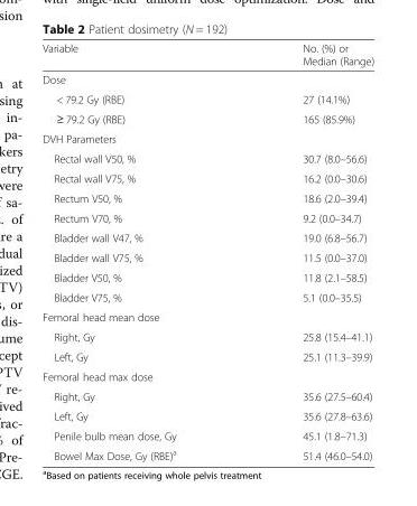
<table><thead><tr><td>Variable</td><td>No. (%) or Median (Range)</td></tr></thead><tbody><tr><td colspan="2">Dose</td></tr><tr><td>&lt; 79.2 Gy (RBE)</td><td>27 (14.1%)</td></tr><tr><td>≥ 79.2 Gy (RBE)</td><td>165 (85.9%)</td></tr><tr><td colspan="2">DVH Parameters</td></tr><tr><td>Rectal wall V50, %</td><td>30.7 (8.0–56.6)</td></tr><tr><td>Rectal wall V75, %</td><td>16.2 (0.0–30.6)</td></tr><tr><td>Rectum V50, %</td><td>18.6 (2.0–39.4)</td></tr><tr><td>Rectum V70, %</td><td>9.2 (0.0–34.7)</td></tr><tr><td>Bladder wall V47, %</td><td>19.0 (6.8–56.7)</td></tr><tr><td>Bladder wall V75, %</td><td>11.5 (0.0–37.0)</td></tr><tr><td>Bladder V50, %</td><td>11.8 (2.1–58.5)</td></tr><tr><td>Bladder V75, %</td><td>5.1 (0.0–35.5)</td></tr><tr><td colspan="2">Femoral head mean dose</td></tr><tr><td>Right, Gy</td><td>25.8 (15.4–41.1)</td></tr><tr><td>Left, Gy</td><td>25.1 (11.3–39.9)</td></tr><tr><td colspan="2">Femoral head max dose</td></tr><tr><td>Right, Gy</td><td>35.6 (27.5–60.4)</td></tr><tr><td>Left, Gy</td><td>35.6 (27.8–63.6)</td></tr><tr><td>Penile bulb mean dose, Gy</td><td>45.1 (1.8–71.3)</td></tr><tr><td>Bowel Max Dose, Gy (RBE)<sup>a</sup></td><td>51.4 (46.0–54.0)</td></tr></tbody></table>